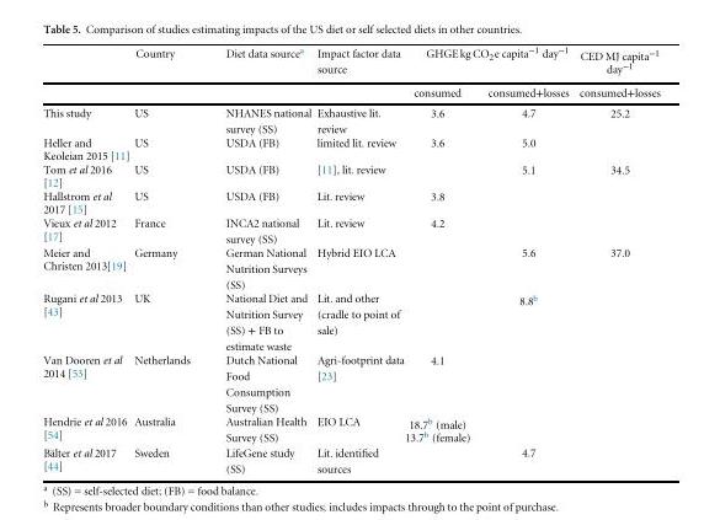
<table><thead><tr><td rowspan="2"></td><td rowspan="2">Country</td><td rowspan="2">Diet data source<sup>a</sup></td><td rowspan="2">Impact factor data source</td><td colspan="2">GHGEkg CO<sub>2</sub>e capita<sup>−1</sup> day<sup>−1</sup></td><td rowspan="2">CED MJ capita<sup>−1</sup> day<sup>−1</sup> consumed+losses</td></tr><tr><td>consumed</td><td>consumed+losses</td></tr></thead><tbody><tr><td>This study</td><td>US</td><td>NHANES national survey (SS)</td><td>Exhaustive lit. review</td><td>3.6</td><td>4.7</td><td>25.2</td></tr><tr><td>Heller and Keoleian 2015 [11]</td><td>US</td><td>USDA (FB)</td><td>limited lit. review</td><td>3.6</td><td>5.0</td><td></td></tr><tr><td>Tom et al 2016 [12]</td><td>US</td><td>USDA (FB)</td><td>[11], lit. review</td><td></td><td>5.1</td><td>34.5</td></tr><tr><td>Hallstrom et al 2017 [15]</td><td>US</td><td>USDA (FB)</td><td>Lit. review</td><td>3.8</td><td></td><td></td></tr><tr><td>Vieux et al 2012 [17]</td><td>France</td><td>INCA2 national survey (SS)</td><td>Lit. review</td><td>4.2</td><td></td><td></td></tr><tr><td>Meier and Christen 2013[19]</td><td>Germany</td><td>German National Nutrition Surveys (SS)</td><td>Hybrid EIO LCA</td><td></td><td>5.6</td><td>37.0</td></tr><tr><td>Rugani et al 2013 [43]</td><td>UK</td><td>National Diet and Nutrition Survey (SS) + FB to estimate waste</td><td>Lit. and other (cradle to point of sale)</td><td></td><td>8.8<sup>b</sup></td><td></td></tr><tr><td>Van Dooren et al 2014 [53]</td><td>Netherlands</td><td>Dutch National Food Consumption Survey (SS)</td><td>Agri-footprint data [23]</td><td>4.1</td><td></td><td></td></tr><tr><td>Hendrie et al 2016 [54]</td><td>Australia</td><td>Australian Health Survey (SS)</td><td>EIO LCA</td><td>18.7<sup>b</sup> (male) 13.7<sup>b</sup> (female)</td><td></td><td></td></tr><tr><td>B¨alter et al 2017 [44]</td><td>Sweden</td><td>LifeGene study (SS)</td><td>Lit. identified sources</td><td></td><td>4.7</td><td></td></tr></tbody></table>